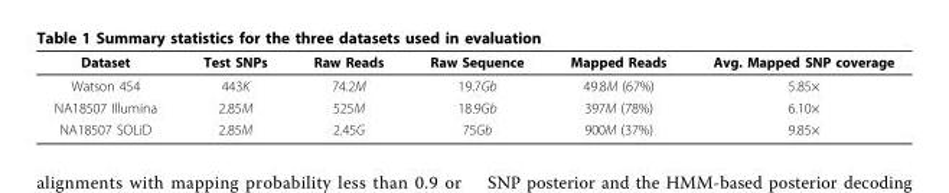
<table><thead><tr><td>Dataset</td><td>Test SNPs</td><td>Raw Reads</td><td>Raw Sequence</td><td>Mapped Reads</td><td>Avg. Mapped SNP coverage</td></tr></thead><tbody><tr><td>Watson 454</td><td>443K</td><td>74.2M</td><td>19.7Gb</td><td>49.8M (67%)</td><td>5.85×</td></tr><tr><td>NA18507 Illumina</td><td>2.85M</td><td>525M</td><td>18.9Gb</td><td>397M (78%)</td><td>6.10×</td></tr><tr><td>NA18507 SOLiD</td><td>2.85M</td><td>2.45G</td><td>75Gb</td><td>900M (37%)</td><td>9.85×</td></tr></tbody></table>